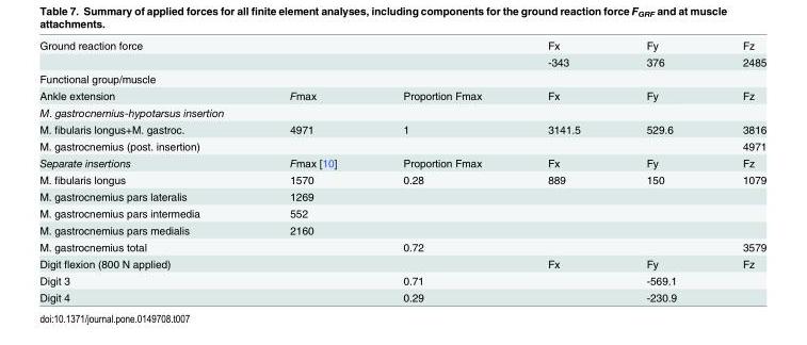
<table><tbody><tr><td rowspan="2">Ground reaction force</td><td></td><td></td><td>Fx</td><td>Fy</td><td>Fz</td></tr><tr><td></td><td></td><td>-343</td><td>376</td><td>2485</td></tr><tr><td colspan="6">Functional group/muscle</td></tr><tr><td>Ankle extension</td><td>Fmax</td><td>Proportion Fmax</td><td>Fx</td><td>Fy</td><td>Fz</td></tr><tr><td colspan="6">M. gastrocnemius-hypotarsus insertion</td></tr><tr><td>M. fibularis longus+M. gastroc.</td><td>4971</td><td>1</td><td>3141.5</td><td>529.6</td><td>3816</td></tr><tr><td>M. gastrocnemius (post. insertion)</td><td></td><td></td><td></td><td></td><td>4971</td></tr><tr><td>Separate insertions</td><td>Fmax [10]</td><td>Proportion Fmax</td><td>Fx</td><td>Fy</td><td>Fz</td></tr><tr><td>M. fibularis longus</td><td>1570</td><td>0.28</td><td>889</td><td>150</td><td>1079</td></tr><tr><td>M. gastrocnemius pars lateralis</td><td>1269</td><td></td><td></td><td></td><td></td></tr><tr><td>M. gastrocnemius pars intermedia</td><td>552</td><td></td><td></td><td></td><td></td></tr><tr><td>M. gastrocnemius pars medialis</td><td>2160</td><td></td><td></td><td></td><td></td></tr><tr><td>M. gastrocnemius total</td><td></td><td>0.72</td><td></td><td></td><td>3579</td></tr><tr><td>Digit flexion (800 N applied)</td><td></td><td></td><td>Fx</td><td>Fy</td><td>Fz</td></tr><tr><td>Digit 3</td><td></td><td>0.71</td><td></td><td>-569.1</td><td></td></tr><tr><td>Digit 4</td><td></td><td>0.29</td><td></td><td>-230.9</td><td></td></tr></tbody></table>